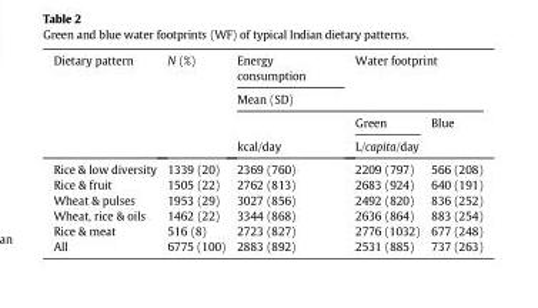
<table><thead><tr><td rowspan="4">Dietary pattern</td><td rowspan="4">N (%)</td><td>Energy consumption</td><td colspan="2">Water footprint</td></tr><tr><td colspan="3">Mean (SD)</td></tr><tr><td rowspan="2">kcal/day</td><td>Green</td><td>Blue</td></tr><tr><td colspan="2">L/capita/day</td></tr></thead><tbody><tr><td>Rice &amp; low diversity</td><td>1339 (20)</td><td>2369 (760)</td><td>2209 (797)</td><td>566 (208)</td></tr><tr><td>Rice &amp; fruit</td><td>1505 (22)</td><td>2762 (813)</td><td>2683 (924)</td><td>640 (191)</td></tr><tr><td>Wheat &amp; pulses</td><td>1953 (29)</td><td>3027 (856)</td><td>2492 (820)</td><td>836 (252)</td></tr><tr><td>Wheat, rice &amp; oils</td><td>1462 (22)</td><td>3344 (868)</td><td>2636 (864)</td><td>883 (254)</td></tr><tr><td>Rice &amp; meat</td><td>516 (8)</td><td>2723 (827)</td><td>2776 (1032)</td><td>677 (248)</td></tr><tr><td>All</td><td>6775 (100)</td><td>2883 (892)</td><td>2531 (885)</td><td>737 (263)</td></tr></tbody></table>